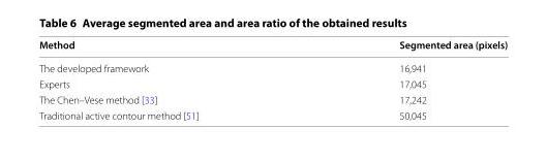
<table><thead><tr><td>Method</td><td>Segmented area (pixels)</td></tr></thead><tbody><tr><td>The developed framework</td><td>16,941</td></tr><tr><td>Experts</td><td>17,045</td></tr><tr><td>The Chen–Vese method [33]</td><td>17,242</td></tr><tr><td>Traditional active contour method [51]</td><td>50,045</td></tr></tbody></table>